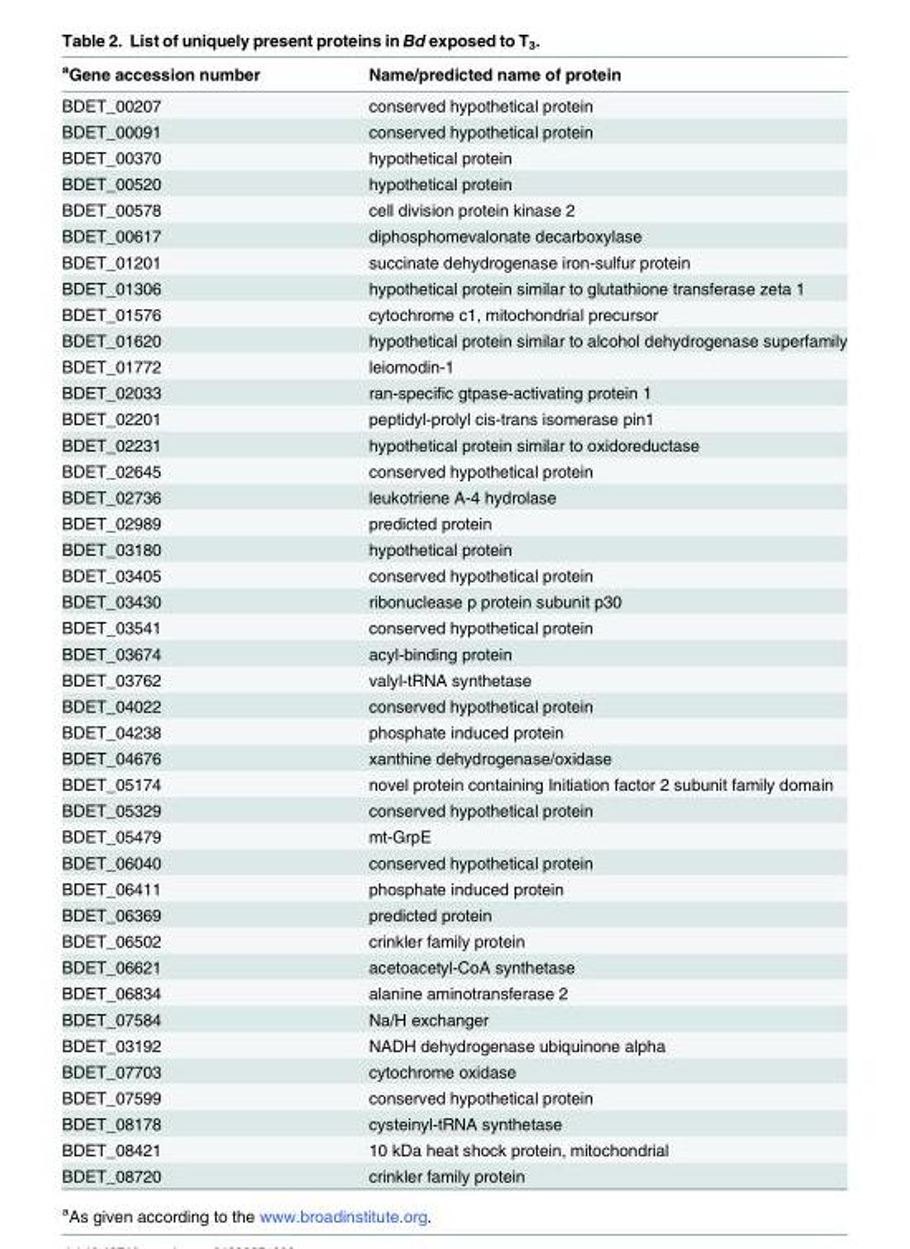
<table><thead><tr><td><sup>a</sup>Gene accession number</td><td>Name/predicted name of protein</td></tr></thead><tbody><tr><td>BDET_00207</td><td>conserved hypothetical protein</td></tr><tr><td>BDET_00091</td><td>conserved hypothetical protein</td></tr><tr><td>BDET_00370</td><td>hypothetical protein</td></tr><tr><td>BDET_00520</td><td>hypothetical protein</td></tr><tr><td>BDET_00578</td><td>cell division protein kinase 2</td></tr><tr><td>BDET_00617</td><td>diphosphomevalonate decarboxylase</td></tr><tr><td>BDET_01201</td><td>succinate dehydrogenase iron-sulfur protein</td></tr><tr><td>BDET_01306</td><td>hypothetical protein similar to glutathione transferase zeta 1</td></tr><tr><td>BDET_01576</td><td>cytochrome c1, mitochondrial precursor</td></tr><tr><td>BDET_01620</td><td>hypothetical protein similar to alcohol dehydrogenase superfamily</td></tr><tr><td>BDET_01772</td><td>leiomodin-1</td></tr><tr><td>BDET_02033</td><td>ran-specific gtpase-activating protein 1</td></tr><tr><td>BDET_02201</td><td>peptidyl-prolyl cis-trans isomerase pin1</td></tr><tr><td>BDET_02231</td><td>hypothetical protein similar to oxidoreductase</td></tr><tr><td>BDET_02645</td><td>conserved hypothetical protein</td></tr><tr><td>BDET_02736</td><td>leukotriene A-4 hydrolase</td></tr><tr><td>BDET_02989</td><td>predicted protein</td></tr><tr><td>BDET_03180</td><td>hypothetical protein</td></tr><tr><td>BDET_03405</td><td>conserved hypothetical protein</td></tr><tr><td>BDET_03430</td><td>ribonuclease p protein subunit p30</td></tr><tr><td>BDET_03541</td><td>conserved hypothetical protein</td></tr><tr><td>BDET_03674</td><td>acyl-binding protein</td></tr><tr><td>BDET_03762</td><td>valyl-tRNA synthetase</td></tr><tr><td>BDET_04022</td><td>conserved hypothetical protein</td></tr><tr><td>BDET_04238</td><td>phosphate induced protein</td></tr><tr><td>BDET_04676</td><td>xanthine dehydrogenase/oxidase</td></tr><tr><td>BDET_05174</td><td>novel protein containing Initiation factor 2 subunit family domain</td></tr><tr><td>BDET_05329</td><td>conserved hypothetical protein</td></tr><tr><td>BDET_05479</td><td>mt-GrpE</td></tr><tr><td>BDET_06040</td><td>conserved hypothetical protein</td></tr><tr><td>BDET_06411</td><td>phosphate induced protein</td></tr><tr><td>BDET_06369</td><td>predicted protein</td></tr><tr><td>BDET_06502</td><td>crinkler family protein</td></tr><tr><td>BDET_06621</td><td>acetoacetyl-CoA synthetase</td></tr><tr><td>BDET_06834</td><td>alanine aminotransferase 2</td></tr><tr><td>BDET_07584</td><td>Na/H exchanger</td></tr><tr><td>BDET_03192</td><td>NADH dehydrogenase ubiquinone alpha</td></tr><tr><td>BDET_07703</td><td>cytochrome oxidase</td></tr><tr><td>BDET_07599</td><td>conserved hypothetical protein</td></tr><tr><td>BDET_08178</td><td>cysteinyl-tRNA synthetase</td></tr><tr><td>BDET_08421</td><td>10 kDa heat shock protein, mitochondrial</td></tr><tr><td>BDET_08720</td><td>crinkler family protein</td></tr></tbody></table>